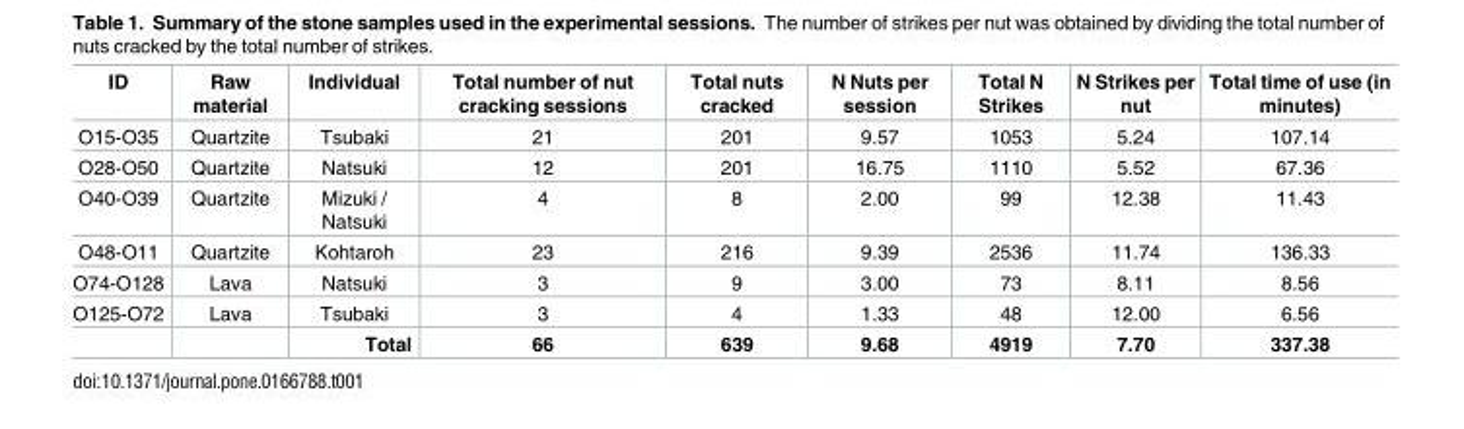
<table><thead><tr><td>ID</td><td>Raw material</td><td>Individual</td><td>Total number of nut cracking sessions</td><td>Total nuts cracked</td><td>N Nuts per session</td><td>Total N Strikes</td><td>N Strikes per nut</td><td>Total time of use (in minutes)</td></tr></thead><tbody><tr><td>O15-O35</td><td>Quartzite</td><td>Tsubaki</td><td>21</td><td>201</td><td>9.57</td><td>1053</td><td>5.24</td><td>107.14</td></tr><tr><td>O28-O50</td><td>Quartzite</td><td>Natsuki</td><td>12</td><td>201</td><td>16.75</td><td>1110</td><td>5.52</td><td>67.36</td></tr><tr><td>O40-O39</td><td>Quartzite</td><td>Mizuki / Natsuki</td><td>4</td><td>8</td><td>2.00</td><td>99</td><td>12.38</td><td>11.43</td></tr><tr><td>O48-O11</td><td>Quartzite</td><td>Kohtaroh</td><td>23</td><td>216</td><td>9.39</td><td>2536</td><td>11.74</td><td>136.33</td></tr><tr><td>O74-O128</td><td>Lava</td><td>Natsuki</td><td>3</td><td>9</td><td>3.00</td><td>73</td><td>8.11</td><td>8.56</td></tr><tr><td rowspan="2">O125-O72</td><td>Lava</td><td>Tsubaki</td><td>3</td><td>4</td><td>1.33</td><td>48</td><td>12.00</td><td>6.56</td></tr><tr><td></td><td>Total</td><td>66</td><td>639</td><td>9.68</td><td>4919</td><td>7.70</td><td>337.38</td></tr></tbody></table>